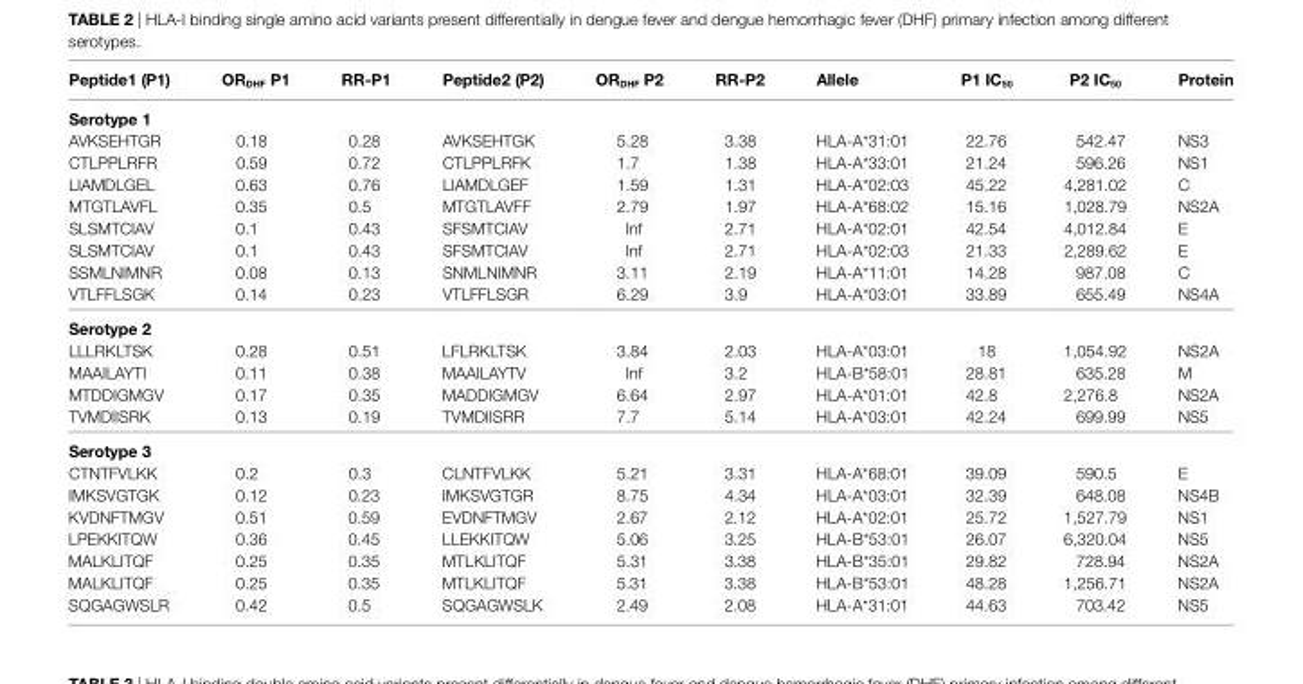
<table><thead><tr><td>Peptide1 (P1)</td><td>Or<sub>DhF</sub> P1</td><td>rr-P1</td><td>Peptide2 (P2)</td><td>Or<sub>DhF</sub> P2</td><td>rr-P2</td><td>allele</td><td>P1 ic<sub>50</sub></td><td>P2 ic<sub>50</sub></td><td>Protein</td></tr></thead><tbody><tr><td colspan="10">serotype 1</td></tr><tr><td>AVKSEHTGR</td><td>0.18</td><td>0.28</td><td>AVKSEHTGK</td><td>5.28</td><td>3.38</td><td>HLA-A*31:01</td><td>22.76</td><td>542.47</td><td>NS3</td></tr><tr><td>CTLPPLRFR</td><td>0.59</td><td>0.72</td><td>CTLPPLRFK</td><td>1.7</td><td>1.38</td><td>HLA-A*33:01</td><td>21.24</td><td>596.26</td><td>NS1</td></tr><tr><td>LIAMDLGEL</td><td>0.63</td><td>0.76</td><td>LIAMDLGEF</td><td>1.59</td><td>1.31</td><td>HLA-A*02:03</td><td>45.22</td><td>4,281.02</td><td>C</td></tr><tr><td>MTGTLAVFL</td><td>0.35</td><td>0.5</td><td>MTGTLAVFF</td><td>2.79</td><td>1.97</td><td>HLA-A*68:02</td><td>15.16</td><td>1,028.79</td><td>NS2A</td></tr><tr><td>SLSMTCIAV</td><td>0.1</td><td>0.43</td><td>SFSMTCIAV</td><td>Inf</td><td>2.71</td><td>HLA-A*02:01</td><td>42.54</td><td>4,012.84</td><td>E</td></tr><tr><td>SLSMTCIAV</td><td>0.1</td><td>0.43</td><td>SFSMTCIAV</td><td>Inf</td><td>2.71</td><td>HLA-A*02:03</td><td>21.33</td><td>2,289.62</td><td>E</td></tr><tr><td>SSMLNIMNR</td><td>0.08</td><td>0.13</td><td>SNMLNIMNR</td><td>3.11</td><td>2.19</td><td>HLA-A*11:01</td><td>14.28</td><td>987.08</td><td>C</td></tr><tr><td>VTLFFLSGK</td><td>0.14</td><td>0.23</td><td>VTLFFLSGR</td><td>6.29</td><td>3.9</td><td>HLA-A*03:01</td><td>33.89</td><td>655.49</td><td>NS4A</td></tr><tr><td colspan="10">serotype 2</td></tr><tr><td>LLLRKLTSK</td><td>0.28</td><td>0.51</td><td>LFLRKLTSK</td><td>3.84</td><td>2.03</td><td>HLA-A*03:01</td><td>18</td><td>1,054.92</td><td>NS2A</td></tr><tr><td>MAAILAYTI</td><td>0.11</td><td>0.38</td><td>MAAILAYTV</td><td>Inf</td><td>3.2</td><td>HLA-B*58:01</td><td>28.81</td><td>635.28</td><td>M</td></tr><tr><td>MTDDIGMGV</td><td>0.17</td><td>0.35</td><td>MADDIGMGV</td><td>6.64</td><td>2.97</td><td>HLA-A*01:01</td><td>42.8</td><td>2,276.8</td><td>NS2A</td></tr><tr><td>TVMDIISRK</td><td>0.13</td><td>0.19</td><td>TVMDIISRR</td><td>7.7</td><td>5.14</td><td>HLA-A*03:01</td><td>42.24</td><td>699.99</td><td>NS5</td></tr><tr><td colspan="10">serotype 3</td></tr><tr><td>CTNTFVLKK</td><td>0.2</td><td>0.3</td><td>CLNTFVLKK</td><td>5.21</td><td>3.31</td><td>HLA-A*68:01</td><td>39.09</td><td>590.5</td><td>E</td></tr><tr><td>IMKSVGTGK</td><td>0.12</td><td>0.23</td><td>IMKSVGTGR</td><td>8.75</td><td>4.34</td><td>HLA-A*03:01</td><td>32.39</td><td>648.08</td><td>NS4B</td></tr><tr><td>KVDNFTMGV</td><td>0.51</td><td>0.59</td><td>EVDNFTMGV</td><td>2.67</td><td>2.12</td><td>HLA-A*02:01</td><td>25.72</td><td>1,527.79</td><td>NS1</td></tr><tr><td>LPEKKITQW</td><td>0.36</td><td>0.45</td><td>LLEKKITQW</td><td>5.06</td><td>3.25</td><td>HLA-B*53:01</td><td>26.07</td><td>6,320.04</td><td>NS5</td></tr><tr><td>MALKLITQF</td><td>0.25</td><td>0.35</td><td>MTLKLITQF</td><td>5.31</td><td>3.38</td><td>HLA-B*35:01</td><td>29.82</td><td>728.94</td><td>NS2A</td></tr><tr><td>MALKLITQF</td><td>0.25</td><td>0.35</td><td>MTLKLITQF</td><td>5.31</td><td>3.38</td><td>HLA-B*53:01</td><td>48.28</td><td>1,256.71</td><td>NS2A</td></tr><tr><td>SQGAGWSLR</td><td>0.42</td><td>0.5</td><td>SQGAGWSLK</td><td>2.49</td><td>2.08</td><td>HLA-A*31:01</td><td>44.63</td><td>703.42</td><td>NS5</td></tr></tbody></table>